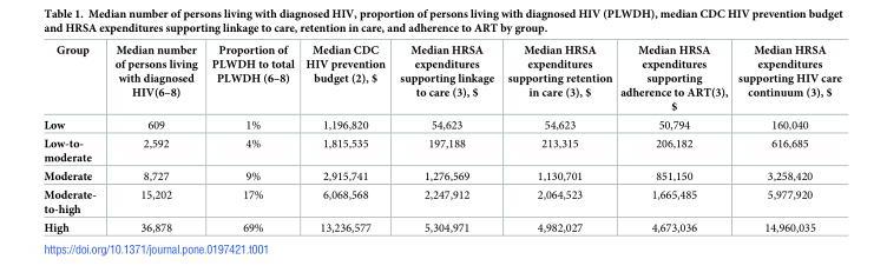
<table><thead><tr><td>Group</td><td>Median number of persons living with diagnosed HIV(6–8)</td><td>Proportion of PLWDH to total PLWDH (6–8)</td><td>Median CDC HIV prevention budget (2), $</td><td>Median HRSA expenditures supporting linkage to care (3), $</td><td>Median HRSA expenditures supporting retention in care (3), $</td><td>Median HRSA expenditures supporting adherence to ART(3), $</td><td>Median HRSA expenditures supporting HIV care continuum (3), $</td></tr></thead><tbody><tr><td>Low</td><td>609</td><td>1%</td><td>1,196,820</td><td>54,623</td><td>54,623</td><td>50,794</td><td>160,040</td></tr><tr><td>Low-to- moderate</td><td>2,592</td><td>4%</td><td>1,815,535</td><td>197,188</td><td>213,315</td><td>206,182</td><td>616,685</td></tr><tr><td>Moderate</td><td>8,727</td><td>9%</td><td>2,915,741</td><td>1,276,569</td><td>1,130,701</td><td>851,150</td><td>3,258,420</td></tr><tr><td>Moderate- to-high</td><td>15,202</td><td>17%</td><td>6,068,568</td><td>2,247,912</td><td>2,064,523</td><td>1,665,485</td><td>5,977,920</td></tr><tr><td>High</td><td>36,878</td><td>69%</td><td>13,236,577</td><td>5,304,971</td><td>4,982,027</td><td>4,673,036</td><td>14,960,035</td></tr></tbody></table>